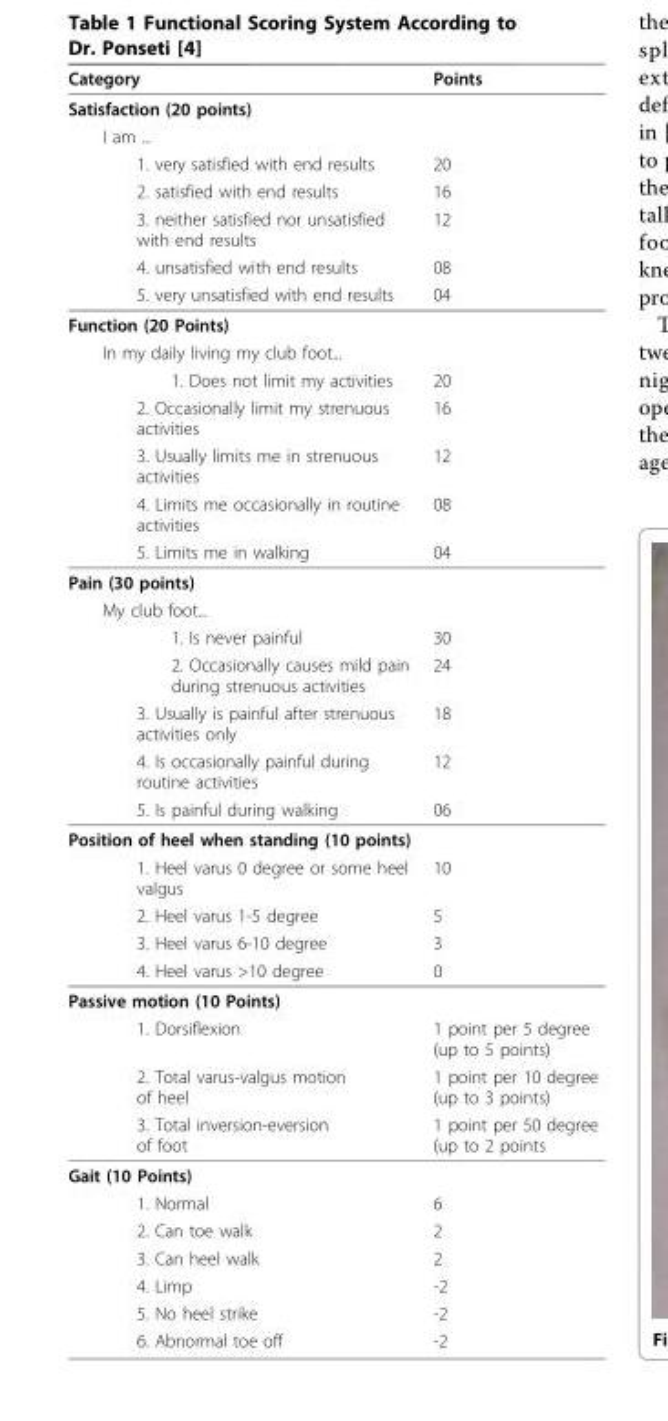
<table><thead><tr><td>Category</td><td>Points</td></tr></thead><tbody><tr><td colspan="2">Satisfaction (20 points)</td></tr><tr><td colspan="2">I am ...</td></tr><tr><td>1. very satisfied with end results</td><td>20</td></tr><tr><td>2. satisfied with end results</td><td>16</td></tr><tr><td>3. neither satisfied nor unsatisfied with end results</td><td>12</td></tr><tr><td>4. unsatisfied with end results</td><td>08</td></tr><tr><td>5. very unsatisfied with end results</td><td>04</td></tr><tr><td colspan="2">Function (20 Points)</td></tr><tr><td colspan="2">In my daily living my club foot...</td></tr><tr><td>1. Does not limit my activities</td><td>20</td></tr><tr><td>2. Occasionally limit my strenuous activities</td><td>16</td></tr><tr><td>3. Usually limits me in strenuous activities</td><td>12</td></tr><tr><td>4. Limits me occasionally in routine activities</td><td>08</td></tr><tr><td>5. Limits me in walking</td><td>04</td></tr><tr><td colspan="2">Pain (30 points)</td></tr><tr><td colspan="2">My club foot...</td></tr><tr><td>1. Is never painful</td><td>30</td></tr><tr><td>2. Occasionally causes mild pain during strenuous activities</td><td>24</td></tr><tr><td>3. Usually is painful after strenuous activities only</td><td>18</td></tr><tr><td>4. Is occasionally painful during routine activities</td><td>12</td></tr><tr><td>5. Is painful during walking</td><td>06</td></tr><tr><td colspan="2">Position of heel when standing (10 points)</td></tr><tr><td>1. Heel varus 0 degree or some heel valgus</td><td>10</td></tr><tr><td>2. Heel varus 1-5 degree</td><td>5</td></tr><tr><td>3. Heel varus 6-10 degree</td><td>3</td></tr><tr><td>4. Heel varus &gt;10 degree</td><td>0</td></tr><tr><td colspan="2">Passive motion (10 Points)</td></tr><tr><td>1. Dorsiflexion</td><td>1 point per 5 degree (up to 5 points)</td></tr><tr><td>2. Total varus-valgus motion of heel</td><td>1 point per 10 degree (up to 3 points)</td></tr><tr><td>3. Total inversion-eversion of foot</td><td>1 point per 50 degree (up to 2 points</td></tr><tr><td colspan="2">Gait (10 Points)</td></tr><tr><td>1. Normal</td><td>6</td></tr><tr><td>2. Can toe walk</td><td>2</td></tr><tr><td>3. Can heel walk</td><td>2</td></tr><tr><td>4. Limp</td><td>-2</td></tr><tr><td>5. No heel strike</td><td>-2</td></tr><tr><td>6. Abnormal toe off</td><td>-2</td></tr></tbody></table>